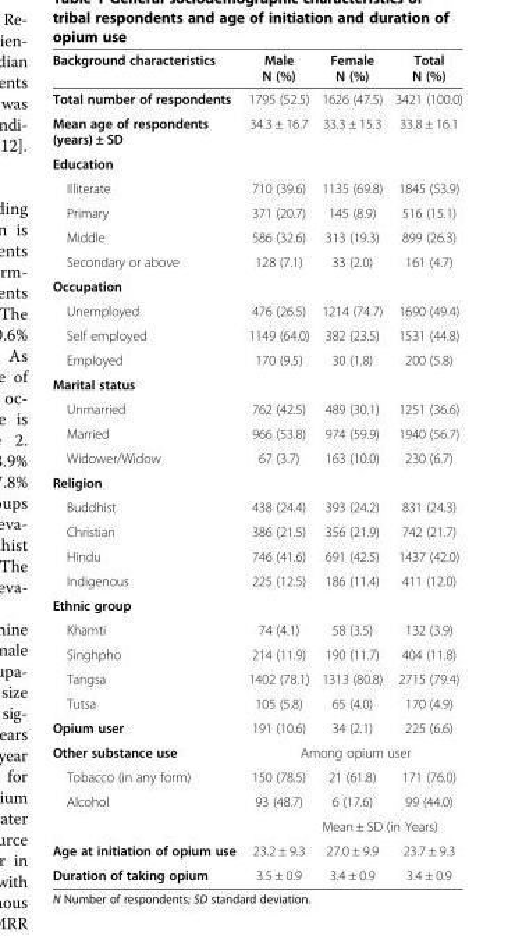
<table><thead><tr><td>Background characteristics</td><td>Male N (%)</td><td>Female N (%)</td><td>Total N (%)</td></tr></thead><tbody><tr><td>Total number of respondents</td><td>1795 (52.5)</td><td>1626 (47.5)</td><td>3421 (100.0)</td></tr><tr><td>Mean age of respondents (years) ± SD</td><td>34.3 ± 16.7</td><td>33.3 ± 15.3</td><td>33.8 ± 16.1</td></tr><tr><td colspan="4">Education</td></tr><tr><td>Illiterate</td><td>710 (39.6)</td><td>1135 (69.8)</td><td>1845 (53.9)</td></tr><tr><td>Primary</td><td>371 (20.7)</td><td>145 (8.9)</td><td>516 (15.1)</td></tr><tr><td>Middle</td><td>586 (32.6)</td><td>313 (19.3)</td><td>899 (26.3)</td></tr><tr><td>Secondary or above</td><td>128 (7.1)</td><td>33 (2.0)</td><td>161 (4.7)</td></tr><tr><td colspan="4">Occupation</td></tr><tr><td>Unemployed</td><td>476 (26.5)</td><td>1214 (74.7)</td><td>1690 (49.4)</td></tr><tr><td>Self employed</td><td>1149 (64.0)</td><td>382 (23.5)</td><td>1531 (44.8)</td></tr><tr><td>Employed</td><td>170 (9.5)</td><td>30 (1.8)</td><td>200 (5.8)</td></tr><tr><td colspan="4">Marital status</td></tr><tr><td>Unmarried</td><td>762 (42.5)</td><td>489 (30.1)</td><td>1251 (36.6)</td></tr><tr><td>Married</td><td>966 (53.8)</td><td>974 (59.9)</td><td>1940 (56.7)</td></tr><tr><td>Widower/Widow</td><td>67 (3.7)</td><td>163 (10.0)</td><td>230 (6.7)</td></tr><tr><td colspan="4">Religion</td></tr><tr><td>Buddhist</td><td>438 (24.4)</td><td>393 (24.2)</td><td>831 (24.3)</td></tr><tr><td>Christian</td><td>386 (21.5)</td><td>356 (21.9)</td><td>742 (21.7)</td></tr><tr><td>Hindu</td><td>746 (41.6)</td><td>691 (42.5)</td><td>1437 (42.0)</td></tr><tr><td>Indigenous</td><td>225 (12.5)</td><td>186 (11.4)</td><td>411 (12.0)</td></tr><tr><td colspan="4">Ethnic group</td></tr><tr><td>Khamti</td><td>74 (4.1)</td><td>58 (3.5)</td><td>132 (3.9)</td></tr><tr><td>Singhpho</td><td>214 (11.9)</td><td>190 (11.7)</td><td>404 (11.8)</td></tr><tr><td>Tangsa</td><td>1402 (78.1)</td><td>1313 (80.8)</td><td>2715 (79.4)</td></tr><tr><td>Tutsa</td><td>105 (5.8)</td><td>65 (4.0)</td><td>170 (4.9)</td></tr><tr><td>Opium user</td><td>191 (10.6)</td><td>34 (2.1)</td><td>225 (6.6)</td></tr><tr><td>Other substance use</td><td colspan="3">Among opium user</td></tr><tr><td>Tobacco (in any form)</td><td>150 (78.5)</td><td>21 (61.8)</td><td>171 (76.0)</td></tr><tr><td rowspan="2">Alcohol</td><td>93 (48.7)</td><td>6 (17.6)</td><td>99 (44.0)</td></tr><tr><td></td><td colspan="2">Mean ± SD (in Years)</td></tr><tr><td>Age at initiation of opium use</td><td>23.2 ± 9.3</td><td>27.0 ± 9.9</td><td>23.7 ± 9.3</td></tr><tr><td>Duration of taking opium</td><td>3.5 ± 0.9</td><td>3.4 ± 0.9</td><td>3.4 ± 0.9</td></tr></tbody></table>